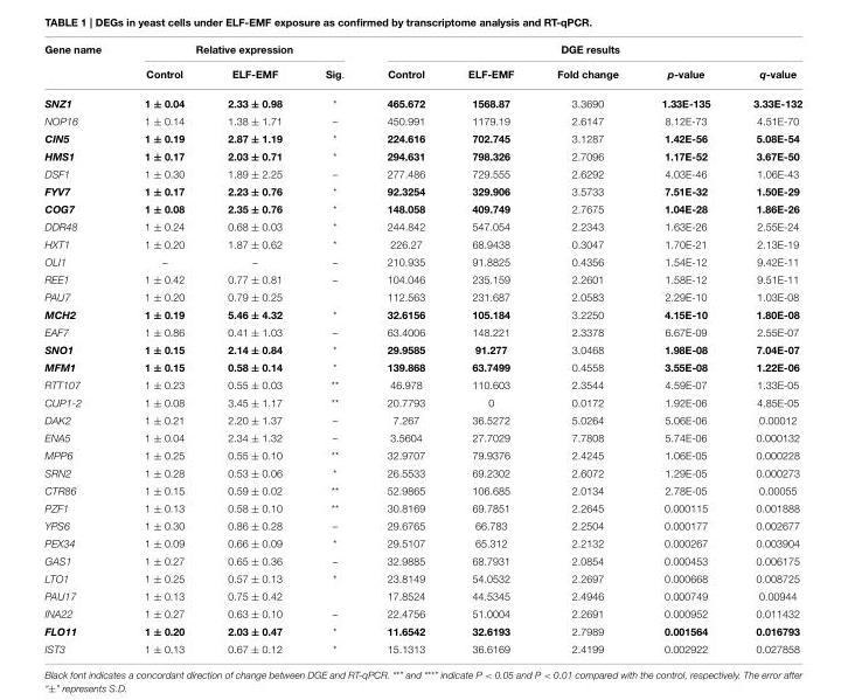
<table><thead><tr><td rowspan="2">Gene name</td><td colspan="3">Relative expression</td><td colspan="5">DGE results</td></tr><tr><td>Control</td><td>ELF-EMF</td><td>Sig.</td><td>Control</td><td>ELF-EMF</td><td>Fold change</td><td>p-value</td><td>q-value</td></tr></thead><tbody><tr><td>SNZ1</td><td>1 ± 0.04</td><td>2.33 ± 0.98</td><td>*</td><td>465.672</td><td>1568.87</td><td>3.3690</td><td>1.33E-135</td><td>3.33E-132</td></tr><tr><td>NOP16</td><td>1 ± 0.14</td><td>1.38 ± 1.71</td><td>–</td><td>450.991</td><td>1179.19</td><td>2.6147</td><td>8.12E-73</td><td>4.51E-70</td></tr><tr><td>CIN5</td><td>1 ± 0.19</td><td>2.87 ± 1.19</td><td>*</td><td>224.616</td><td>702.745</td><td>3.1287</td><td>1.42E-56</td><td>5.08E-54</td></tr><tr><td>HMS1</td><td>1 ± 0.17</td><td>2.03 ± 0.71</td><td>*</td><td>294.631</td><td>798.326</td><td>2.7096</td><td>1.17E-52</td><td>3.67E-50</td></tr><tr><td>DSF1</td><td>1 ± 0.30</td><td>1.89 ± 2.25</td><td>–</td><td>277.486</td><td>729.555</td><td>2.6292</td><td>4.03E-46</td><td>1.06E-43</td></tr><tr><td>FYV7</td><td>1 ± 0.17</td><td>2.23 ± 0.76</td><td>*</td><td>92.3254</td><td>329.906</td><td>3.5733</td><td>7.51E-32</td><td>1.50E-29</td></tr><tr><td>COG7</td><td>1 ± 0.08</td><td>2.35 ± 0.76</td><td>*</td><td>148.058</td><td>409.749</td><td>2.7675</td><td>1.04E-28</td><td>1.86E-26</td></tr><tr><td>DDR48</td><td>1 ± 0.24</td><td>0.68 ± 0.03</td><td>*</td><td>244.842</td><td>547.054</td><td>2.2343</td><td>1.63E-26</td><td>2.55E-24</td></tr><tr><td>HXT1</td><td>1 ± 0.20</td><td>1.87 ± 0.62</td><td>*</td><td>226.27</td><td>68.9438</td><td>0.3047</td><td>1.70E-21</td><td>2.13E-19</td></tr><tr><td>OLI1</td><td>–</td><td>–</td><td>–</td><td>210.935</td><td>91.8825</td><td>0.4356</td><td>1.54E-12</td><td>9.42E-11</td></tr><tr><td>REE1</td><td>1 ± 0.42</td><td>0.77 ± 0.81</td><td>–</td><td>104.046</td><td>235.159</td><td>2.2601</td><td>1.58E-12</td><td>9.51E-11</td></tr><tr><td>PAU7</td><td>1 ± 0.20</td><td>0.79 ± 0.25</td><td></td><td>112.563</td><td>231.687</td><td>2.0583</td><td>2.29E-10</td><td>1.03E-08</td></tr><tr><td>MCH2</td><td>1 ± 0.19</td><td>5.46 ± 4.32</td><td>*</td><td>32.6156</td><td>105.184</td><td>3.2250</td><td>4.15E-10</td><td>1.80E-08</td></tr><tr><td>EAF7</td><td>1 ± 0.86</td><td>0.41 ± 1.03</td><td>–</td><td>63.4006</td><td>148.221</td><td>2.3378</td><td>6.67E-09</td><td>2.55E-07</td></tr><tr><td>SNO1</td><td>1 ± 0.15</td><td>2.14 ± 0.84</td><td>*</td><td>29.9585</td><td>91.277</td><td>3.0468</td><td>1.98E-08</td><td>7.04E-07</td></tr><tr><td>MFM1</td><td>1 ± 0.15</td><td>0.58 ± 0.14</td><td>*</td><td>139.868</td><td>63.7499</td><td>0.4558</td><td>3.55E-08</td><td>1.22E-06</td></tr><tr><td>RTT107</td><td>1 ± 0.23</td><td>0.55 ± 0.03</td><td>**</td><td>46.978</td><td>110.603</td><td>2.3544</td><td>4.59E-07</td><td>1.33E-05</td></tr><tr><td>CUP1-2</td><td>1 ± 0.08</td><td>3.45 ± 1.17</td><td>**</td><td>20.7793</td><td>0</td><td>0.0172</td><td>1.92E-06</td><td>4.85E-05</td></tr><tr><td>DAK2</td><td>1 ± 0.21</td><td>2.20 ± 1.37</td><td>–</td><td>7.267</td><td>36.5272</td><td>5.0264</td><td>5.06E-06</td><td>0.00012</td></tr><tr><td>ENA5</td><td>1 ± 0.04</td><td>2.34 ± 1.32</td><td>–</td><td>3.5604</td><td>27.7029</td><td>7.7808</td><td>5.74E-06</td><td>0.000132</td></tr><tr><td>MPP6</td><td>1 ± 0.25</td><td>0.55 ± 0.10</td><td>**</td><td>32.9707</td><td>79.9376</td><td>2.4245</td><td>1.06E-05</td><td>0.000228</td></tr><tr><td>SRN2</td><td>1 ± 0.28</td><td>0.53 ± 0.06</td><td>*</td><td>26.5533</td><td>69.2302</td><td>2.6072</td><td>1.29E-05</td><td>0.000273</td></tr><tr><td>CTR86</td><td>1 ± 0.15</td><td>0.59 ± 0.02</td><td>**</td><td>52.9865</td><td>106.685</td><td>2.0134</td><td>2.78E-05</td><td>0.00055</td></tr><tr><td>PZF1</td><td>1 ± 0.13</td><td>0.58 ± 0.10</td><td>**</td><td>30.8169</td><td>69.7851</td><td>2.2645</td><td>0.000115</td><td>0.001888</td></tr><tr><td>YPS6</td><td>1 ± 0.30</td><td>0.86 ± 0.28</td><td>–</td><td>29.6765</td><td>66.783</td><td>2.2504</td><td>0.000177</td><td>0.002677</td></tr><tr><td>PEX34</td><td>1 ± 0.09</td><td>0.66 ± 0.09</td><td>*</td><td>29.5107</td><td>65.312</td><td>2.2132</td><td>0.000267</td><td>0.003904</td></tr><tr><td>GAS1</td><td>1 ± 0.27</td><td>0.65 ± 0.36</td><td>–</td><td>32.9885</td><td>68.7931</td><td>2.0854</td><td>0.000453</td><td>0.006175</td></tr><tr><td>LTO1</td><td>1 ± 0.25</td><td>0.57 ± 0.13</td><td>*</td><td>23.8149</td><td>54.0532</td><td>2.2697</td><td>0.000668</td><td>0.008725</td></tr><tr><td>PAU17</td><td>1 ± 0.13</td><td>0.75 ± 0.42</td><td></td><td>17.8524</td><td>44.5345</td><td>2.4946</td><td>0.000749</td><td>0.00944</td></tr><tr><td>INA22</td><td>1 ± 0.27</td><td>0.63 ± 0.10</td><td>–</td><td>22.4756</td><td>51.0004</td><td>2.2691</td><td>0.000952</td><td>0.011432</td></tr><tr><td>FLO11</td><td>1 ± 0.20</td><td>2.03 ± 0.47</td><td>*</td><td>11.6542</td><td>32.6193</td><td>2.7989</td><td>0.001564</td><td>0.016793</td></tr><tr><td>IST3</td><td>1 ± 0.13</td><td>0.67 ± 0.12</td><td>*</td><td>15.1313</td><td>36.6169</td><td>2.4199</td><td>0.002922</td><td>0.027858</td></tr></tbody></table>